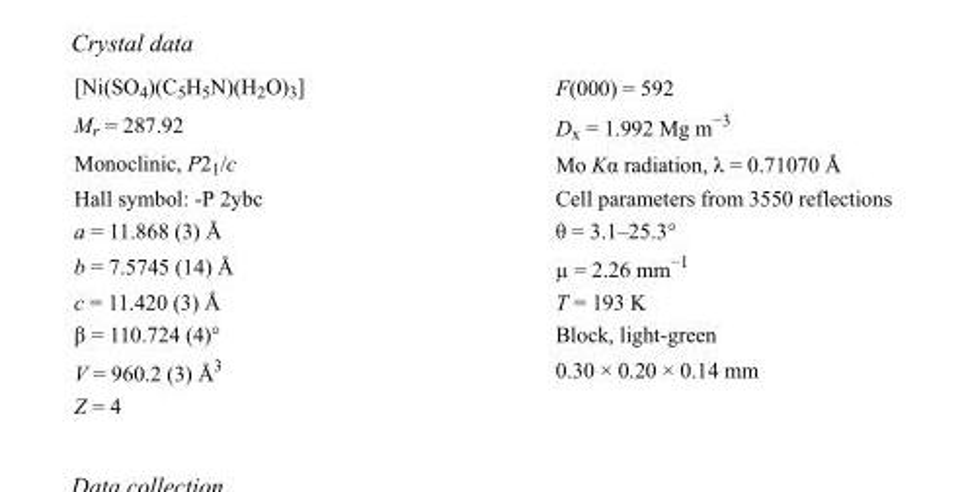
<table><tbody><tr><td>[Ni(SO<sub>4</sub>)(C<sub>5</sub>H<sub>5</sub>N)(H<sub>2</sub>O)<sub>3</sub>]</td><td>F(000) = 592</td></tr><tr><td>M<sub>r</sub> = 287.92</td><td>D<sub>x</sub> = 1.992 Mg m<sup>−3</sup></td></tr><tr><td>Monoclinic, P2<sub>1</sub>/c</td><td>Mo Kα radiation, λ = 0.71070 Å</td></tr><tr><td>Hall symbol: -P 2ybc</td><td>Cell parameters from 3550 reflections</td></tr><tr><td>a = 11.868 (3) Å</td><td>θ = 3.1–25.3°</td></tr><tr><td>b = 7.5745 (14) Å</td><td>µ = 2.26 mm<sup>−1</sup></td></tr><tr><td>c = 11.420 (3) Å</td><td>T = 193 K</td></tr><tr><td>β = 110.724 (4)°</td><td>Block, light-green</td></tr><tr><td>V = 960.2 (3) Å<sup>3</sup></td><td>0.30 × 0.20 × 0.14 mm</td></tr><tr><td>Z = 4</td><td></td></tr></tbody></table>